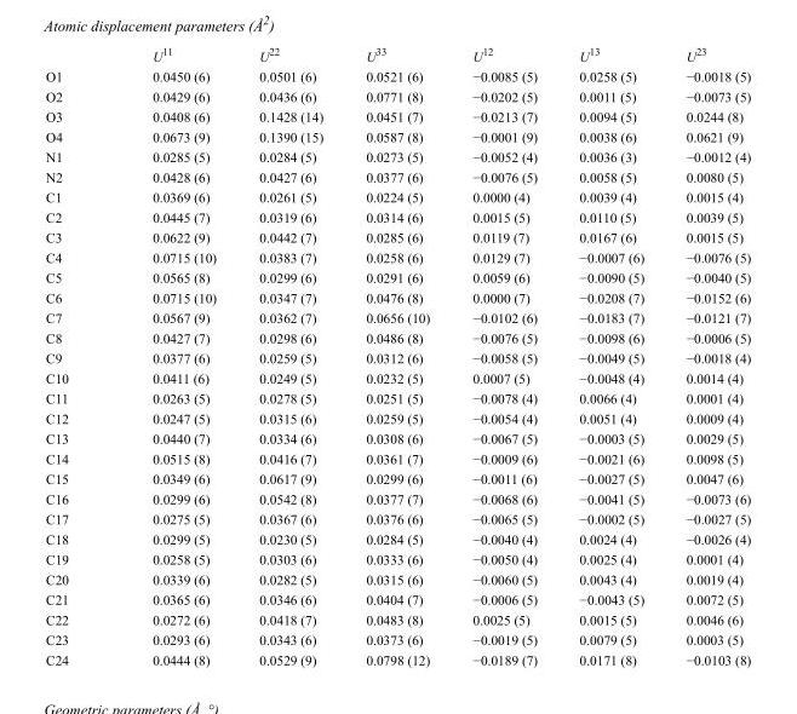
<table><thead><tr><td></td><td>U<sup>11</sup></td><td>U<sup>22</sup></td><td>U<sup>33</sup></td><td>U<sup>12</sup></td><td>U<sup>13</sup></td><td>U<sup>23</sup></td></tr></thead><tbody><tr><td>O1</td><td>0.0450 (6)</td><td>0.0501 (6)</td><td>0.0521 (6)</td><td>−0.0085 (5)</td><td>0.0258 (5)</td><td>−0.0018 (5)</td></tr><tr><td>O2</td><td>0.0429 (6)</td><td>0.0436 (6)</td><td>0.0771 (8)</td><td>−0.0202 (5)</td><td>0.0011 (5)</td><td>−0.0073 (5)</td></tr><tr><td>O3</td><td>0.0408 (6)</td><td>0.1428 (14)</td><td>0.0451 (7)</td><td>−0.0213 (7)</td><td>0.0094 (5)</td><td>0.0244 (8)</td></tr><tr><td>O4</td><td>0.0673 (9)</td><td>0.1390 (15)</td><td>0.0587 (8)</td><td>−0.0001 (9)</td><td>0.0038 (6)</td><td>0.0621 (9)</td></tr><tr><td>N1</td><td>0.0285 (5)</td><td>0.0284 (5)</td><td>0.0273 (5)</td><td>−0.0052 (4)</td><td>0.0036 (3)</td><td>−0.0012 (4)</td></tr><tr><td>N2</td><td>0.0428 (6)</td><td>0.0427 (6)</td><td>0.0377 (6)</td><td>−0.0076 (5)</td><td>0.0058 (5)</td><td>0.0080 (5)</td></tr><tr><td>C1</td><td>0.0369 (6)</td><td>0.0261 (5)</td><td>0.0224 (5)</td><td>0.0000 (4)</td><td>0.0039 (4)</td><td>0.0015 (4)</td></tr><tr><td>C2</td><td>0.0445 (7)</td><td>0.0319 (6)</td><td>0.0314 (6)</td><td>0.0015 (5)</td><td>0.0110 (5)</td><td>0.0039 (5)</td></tr><tr><td>C3</td><td>0.0622 (9)</td><td>0.0442 (7)</td><td>0.0285 (6)</td><td>0.0119 (7)</td><td>0.0167 (6)</td><td>0.0015 (5)</td></tr><tr><td>C4</td><td>0.0715 (10)</td><td>0.0383 (7)</td><td>0.0258 (6)</td><td>0.0129 (7)</td><td>−0.0007 (6)</td><td>−0.0076 (5)</td></tr><tr><td>C5</td><td>0.0565 (8)</td><td>0.0299 (6)</td><td>0.0291 (6)</td><td>0.0059 (6)</td><td>−0.0090 (5)</td><td>−0.0040 (5)</td></tr><tr><td>C6</td><td>0.0715 (10)</td><td>0.0347 (7)</td><td>0.0476 (8)</td><td>0.0000 (7)</td><td>−0.0208 (7)</td><td>−0.0152 (6)</td></tr><tr><td>C7</td><td>0.0567 (9)</td><td>0.0362 (7)</td><td>0.0656 (10)</td><td>−0.0102 (6)</td><td>−0.0183 (7)</td><td>−0.0121 (7)</td></tr><tr><td>C8</td><td>0.0427 (7)</td><td>0.0298 (6)</td><td>0.0486 (8)</td><td>−0.0076 (5)</td><td>−0.0098 (6)</td><td>−0.0006 (5)</td></tr><tr><td>C9</td><td>0.0377 (6)</td><td>0.0259 (5)</td><td>0.0312 (6)</td><td>−0.0058 (5)</td><td>−0.0049 (5)</td><td>−0.0018 (4)</td></tr><tr><td>C10</td><td>0.0411 (6)</td><td>0.0249 (5)</td><td>0.0232 (5)</td><td>0.0007 (5)</td><td>−0.0048 (4)</td><td>0.0014 (4)</td></tr><tr><td>C11</td><td>0.0263 (5)</td><td>0.0278 (5)</td><td>0.0251 (5)</td><td>−0.0078 (4)</td><td>0.0066 (4)</td><td>0.0001 (4)</td></tr><tr><td>C12</td><td>0.0247 (5)</td><td>0.0315 (6)</td><td>0.0259 (5)</td><td>−0.0054 (4)</td><td>0.0051 (4)</td><td>0.0009 (4)</td></tr><tr><td>C13</td><td>0.0440 (7)</td><td>0.0334 (6)</td><td>0.0308 (6)</td><td>−0.0067 (5)</td><td>−0.0003 (5)</td><td>0.0029 (5)</td></tr><tr><td>C14</td><td>0.0515 (8)</td><td>0.0416 (7)</td><td>0.0361 (7)</td><td>−0.0009 (6)</td><td>−0.0021 (6)</td><td>0.0098 (5)</td></tr><tr><td>C15</td><td>0.0349 (6)</td><td>0.0617 (9)</td><td>0.0299 (6)</td><td>−0.0011 (6)</td><td>−0.0027 (5)</td><td>0.0047 (6)</td></tr><tr><td>C16</td><td>0.0299 (6)</td><td>0.0542 (8)</td><td>0.0377 (7)</td><td>−0.0068 (6)</td><td>−0.0041 (5)</td><td>−0.0073 (6)</td></tr><tr><td>C17</td><td>0.0275 (5)</td><td>0.0367 (6)</td><td>0.0376 (6)</td><td>−0.0065 (5)</td><td>−0.0002 (5)</td><td>−0.0027 (5)</td></tr><tr><td>C18</td><td>0.0299 (5)</td><td>0.0230 (5)</td><td>0.0284 (5)</td><td>−0.0040 (4)</td><td>0.0024 (4)</td><td>−0.0026 (4)</td></tr><tr><td>C19</td><td>0.0258 (5)</td><td>0.0303 (6)</td><td>0.0333 (6)</td><td>−0.0050 (4)</td><td>0.0025 (4)</td><td>0.0001 (4)</td></tr><tr><td>C20</td><td>0.0339 (6)</td><td>0.0282 (5)</td><td>0.0315 (6)</td><td>−0.0060 (5)</td><td>0.0043 (4)</td><td>0.0019 (4)</td></tr><tr><td>C21</td><td>0.0365 (6)</td><td>0.0346 (6)</td><td>0.0404 (7)</td><td>−0.0006 (5)</td><td>−0.0043 (5)</td><td>0.0072 (5)</td></tr><tr><td>C22</td><td>0.0272 (6)</td><td>0.0418 (7)</td><td>0.0483 (8)</td><td>0.0025 (5)</td><td>0.0015 (5)</td><td>0.0046 (6)</td></tr><tr><td>C23</td><td>0.0293 (6)</td><td>0.0343 (6)</td><td>0.0373 (6)</td><td>−0.0019 (5)</td><td>0.0079 (5)</td><td>0.0003 (5)</td></tr><tr><td>C24</td><td>0.0444 (8)</td><td>0.0529 (9)</td><td>0.0798 (12)</td><td>−0.0189 (7)</td><td>0.0171 (8)</td><td>−0.0103 (8)</td></tr></tbody></table>